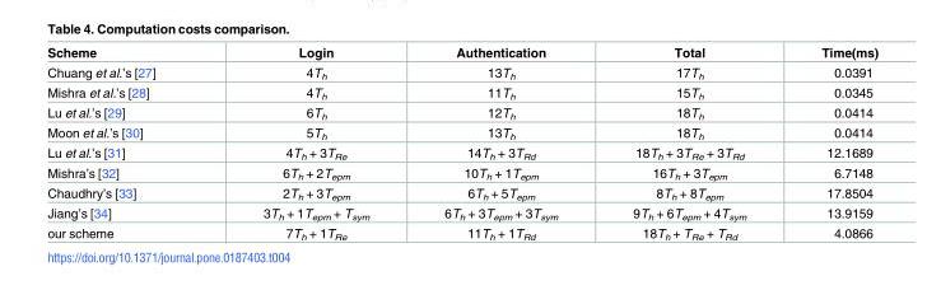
<table><thead><tr><td>Scheme</td><td>Login</td><td>Authentication</td><td>Total</td><td>Time(ms)</td></tr></thead><tbody><tr><td>Chuang et al.’s [27]</td><td>4T<sub>h</sub></td><td>13T<sub>h</sub></td><td>17T<sub>h</sub></td><td>0.0391</td></tr><tr><td>Mishra et al.’s [28]</td><td>4T<sub>h</sub></td><td>11T<sub>h</sub></td><td>15T<sub>h</sub></td><td>0.0345</td></tr><tr><td>Lu et al.’s [29]</td><td>6T<sub>h</sub></td><td>12T<sub>h</sub></td><td>18T<sub>h</sub></td><td>0.0414</td></tr><tr><td>Moon et al.’s [30]</td><td>5T<sub>h</sub></td><td>13T<sub>h</sub></td><td>18T<sub>h</sub></td><td>0.0414</td></tr><tr><td>Lu et al.’s [31]</td><td>4T<sub>h</sub> + 3T<sub>Re</sub></td><td>14T<sub>h</sub> + 3T<sub>Rd</sub></td><td>18T<sub>h</sub> + 3T<sub>Re</sub> + 3T<sub>Rd</sub></td><td>12.1689</td></tr><tr><td>Mishra’s [32]</td><td>6T<sub>h</sub> + 2T<sub>epm</sub></td><td>10T<sub>h</sub> + 1T<sub>epm</sub></td><td>16T<sub>h</sub> + 3T<sub>epm</sub></td><td>6.7148</td></tr><tr><td>Chaudhry’s [33]</td><td>2T<sub>h</sub> + 3T<sub>epm</sub></td><td>6T<sub>h</sub> + 5T<sub>epm</sub></td><td>8T<sub>h</sub> + 8T<sub>epm</sub></td><td>17.8504</td></tr><tr><td>Jiang’s [34]</td><td>3T<sub>h</sub> + 1T<sub>epm</sub> + T<sub>sym</sub></td><td>6T<sub>h</sub> + 3T<sub>epm</sub> + 3T<sub>sym</sub></td><td>9T<sub>h</sub> + 6T<sub>epm</sub> + 4T<sub>sym</sub></td><td>13.9159</td></tr><tr><td>our scheme</td><td>7T<sub>h</sub> + 1T<sub>Re</sub></td><td>11T<sub>h</sub> + 1T<sub>Rd</sub></td><td>18T<sub>h</sub> + T<sub>Re</sub> + T<sub>Rd</sub></td><td>4.0866</td></tr></tbody></table>